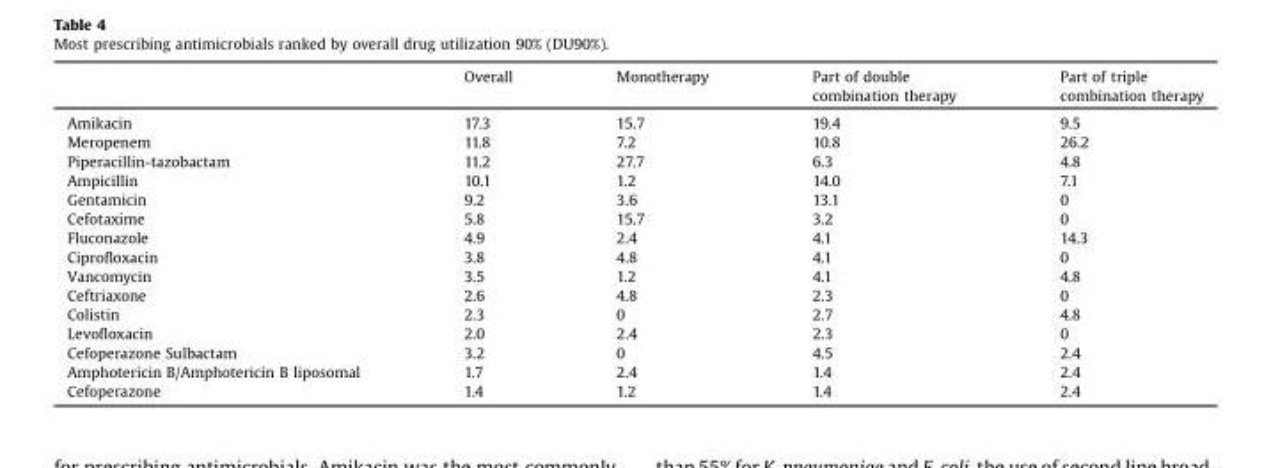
<table><thead><tr><td></td><td>Overall</td><td>Monotherapy</td><td>Part of double combination therapy</td><td>Part of triple combination therapy</td></tr></thead><tbody><tr><td>Amikacin</td><td>17.3</td><td>15.7</td><td>19.4</td><td>9.5</td></tr><tr><td>Meropenem</td><td>11.8</td><td>7.2</td><td>10.8</td><td>26.2</td></tr><tr><td>Piperacillin-tazobactam</td><td>11.2</td><td>27.7</td><td>6.3</td><td>4.8</td></tr><tr><td>Ampicillin</td><td>10.1</td><td>1.2</td><td>14.0</td><td>7.1</td></tr><tr><td>Gentamicin</td><td>9.2</td><td>3.6</td><td>13.1</td><td>0</td></tr><tr><td>Cefotaxime</td><td>5.8</td><td>15.7</td><td>3.2</td><td>0</td></tr><tr><td>Fluconazole</td><td>4.9</td><td>2.4</td><td>4.1</td><td>14.3</td></tr><tr><td>Ciprofloxacin</td><td>3.8</td><td>4.8</td><td>4.1</td><td>0</td></tr><tr><td>Vancomycin</td><td>3.5</td><td>1.2</td><td>4.1</td><td>4.8</td></tr><tr><td>Ceftriaxone</td><td>2.6</td><td>4.8</td><td>2.3</td><td>0</td></tr><tr><td>Colistin</td><td>2.3</td><td>0</td><td>2.7</td><td>4.8</td></tr><tr><td>Levofloxacin</td><td>2.0</td><td>2.4</td><td>2.3</td><td>0</td></tr><tr><td>Cefoperazone Sulbactam</td><td>3.2</td><td>0</td><td>4.5</td><td>2.4</td></tr><tr><td>Amphotericin B/Amphotericin B liposomal</td><td>1.7</td><td>2.4</td><td>1.4</td><td>2.4</td></tr><tr><td>Cefoperazone</td><td>1.4</td><td>1.2</td><td>1.4</td><td>2.4</td></tr></tbody></table>